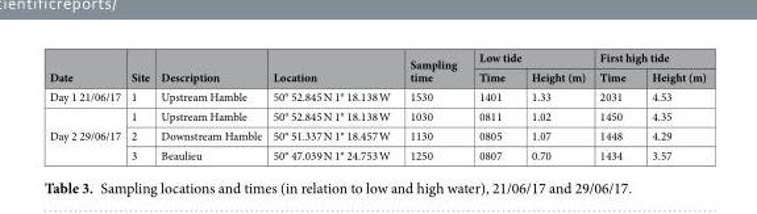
<table><thead><tr><td rowspan="2">Date</td><td rowspan="2">Site</td><td rowspan="2">Description</td><td rowspan="2">Location</td><td rowspan="2">Sampling time</td><td colspan="2">Low tide</td><td colspan="2">First high tide</td></tr><tr><td>Time</td><td>Height (m)</td><td>Time</td><td>Height (m)</td></tr></thead><tbody><tr><td>Day 1 21/06/17</td><td>1</td><td>Upstream Hamble</td><td>50° 52.845 N 1° 18.138 W</td><td>1530</td><td>1401</td><td>1.33</td><td>2031</td><td>4.53</td></tr><tr><td rowspan="3">Day 2 29/06/17</td><td>1</td><td>Upstream Hamble</td><td>50° 52.845 N 1° 18.138 W</td><td>1030</td><td>0811</td><td>1.02</td><td>1450</td><td>4.35</td></tr><tr><td>2</td><td>Downstream Hamble</td><td>50° 51.337 N 1° 18.457 W</td><td>1130</td><td>0805</td><td>1.07</td><td>1448</td><td>4.29</td></tr><tr><td>3</td><td>Beaulieu</td><td>50° 47.039 N 1° 24.753 W</td><td>1250</td><td>0807</td><td>0.70</td><td>1434</td><td>3.57</td></tr></tbody></table>